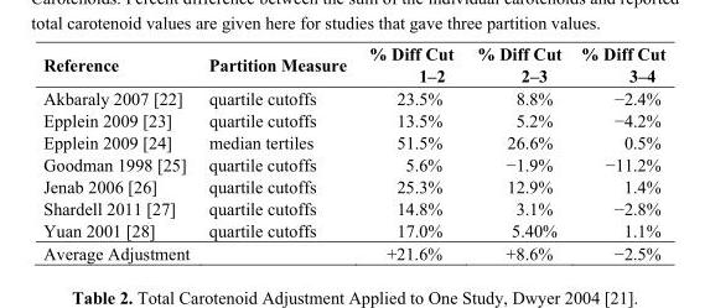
<table><thead><tr><td>Reference</td><td>Partition Measure</td><td>% Diff Cut 1–2</td><td>% Diff Cut 2–3</td><td>% Diff Cut 3–4</td></tr></thead><tbody><tr><td>Akbaraly 2007 [22]</td><td>quartile cutoffs</td><td>23.5%</td><td>8.8%</td><td>−2.4%</td></tr><tr><td>Epplein 2009 [23]</td><td>quartile cutoffs</td><td>13.5%</td><td>5.2%</td><td>−4.2%</td></tr><tr><td>Epplein 2009 [24]</td><td>median tertiles</td><td>51.5%</td><td>26.6%</td><td>0.5%</td></tr><tr><td>Goodman 1998 [25]</td><td>quartile cutoffs</td><td>5.6%</td><td>−1.9%</td><td>−11.2%</td></tr><tr><td>Jenab 2006 [26]</td><td>quartile cutoffs</td><td>25.3%</td><td>12.9%</td><td>1.4%</td></tr><tr><td>Shardell 2011 [27]</td><td>quartile cutoffs</td><td>14.8%</td><td>3.1%</td><td>−2.8%</td></tr><tr><td>Yuan 2001 [28]</td><td>quartile cutoffs</td><td>17.0%</td><td>5.40%</td><td>1.1%</td></tr><tr><td>Average Adjustment</td><td></td><td>+21.6%</td><td>+8.6%</td><td>−2.5%</td></tr></tbody></table>